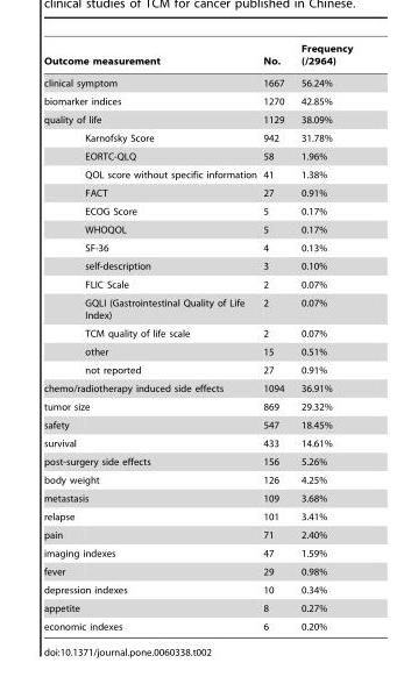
<table><thead><tr><td colspan="2">Outcome measurement</td><td>No.</td><td>Frequency (/2964)</td></tr></thead><tbody><tr><td colspan="2">clinical symptom</td><td>1667</td><td>56.24%</td></tr><tr><td colspan="2">biomarker indices</td><td>1270</td><td>42.85%</td></tr><tr><td colspan="2">quality of life</td><td>1129</td><td>38.09%</td></tr><tr><td></td><td>Karnofsky Score</td><td>942</td><td>31.78%</td></tr><tr><td></td><td>EORTC-QLQ</td><td>58</td><td>1.96%</td></tr><tr><td></td><td>QOL score without specific information</td><td>41</td><td>1.38%</td></tr><tr><td></td><td>FACT</td><td>27</td><td>0.91%</td></tr><tr><td></td><td>ECOG Score</td><td>5</td><td>0.17%</td></tr><tr><td></td><td>WHOQOL</td><td>5</td><td>0.17%</td></tr><tr><td></td><td>SF-36</td><td>4</td><td>0.13%</td></tr><tr><td></td><td>self-description</td><td>3</td><td>0.10%</td></tr><tr><td></td><td>FLIC Scale</td><td>2</td><td>0.07%</td></tr><tr><td></td><td>GQLI (Gastrointestinal Quality of Life Index)</td><td>2</td><td>0.07%</td></tr><tr><td></td><td>TCM quality of life scale</td><td>2</td><td>0.07%</td></tr><tr><td></td><td>other</td><td>15</td><td>0.51%</td></tr><tr><td></td><td>not reported</td><td>27</td><td>0.91%</td></tr><tr><td colspan="2">chemo/radiotherapy induced side effects</td><td>1094</td><td>36.91%</td></tr><tr><td colspan="2">tumor size</td><td>869</td><td>29.32%</td></tr><tr><td>safety</td><td></td><td>547</td><td>18.45%</td></tr><tr><td>survival</td><td></td><td>433</td><td>14.61%</td></tr><tr><td colspan="2">post-surgery side effects</td><td>156</td><td>5.26%</td></tr><tr><td colspan="2">body weight</td><td>126</td><td>4.25%</td></tr><tr><td colspan="2">metastasis</td><td>109</td><td>3.68%</td></tr><tr><td>relapse</td><td></td><td>101</td><td>3.41%</td></tr><tr><td>pain</td><td></td><td>71</td><td>2.40%</td></tr><tr><td colspan="2">imaging indexes</td><td>47</td><td>1.59%</td></tr><tr><td>fever</td><td></td><td>29</td><td>0.98%</td></tr><tr><td colspan="2">depression indexes</td><td>10</td><td>0.34%</td></tr><tr><td colspan="2">appetite</td><td>8</td><td>0.27%</td></tr><tr><td colspan="2">economic indexes</td><td>6</td><td>0.20%</td></tr></tbody></table>